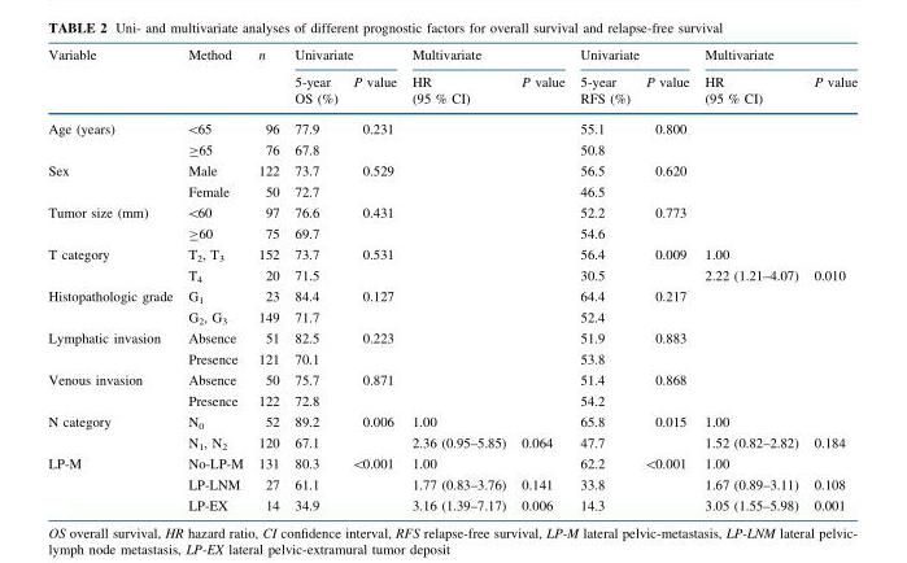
<table><thead><tr><td rowspan="2">Variable</td><td rowspan="2">Method</td><td rowspan="2">n</td><td colspan="2">Univariate</td><td colspan="2">Multivariate</td><td colspan="2">Univariate</td><td colspan="2">Multivariate</td></tr><tr><td>5-year OS (%)</td><td>P value</td><td>HR (95 % CI)</td><td>P value</td><td>5-year RFS (%)</td><td>P value</td><td>HR (95 % CI)</td><td>P value</td></tr></thead><tbody><tr><td rowspan="2">Age (years)</td><td>&lt;65</td><td>96</td><td>77.9</td><td>0.231</td><td></td><td></td><td>55.1</td><td>0.800</td><td></td><td></td></tr><tr><td>≥65</td><td>76</td><td>67.8</td><td></td><td></td><td></td><td>50.8</td><td></td><td></td><td></td></tr><tr><td rowspan="2">Sex</td><td>Male</td><td>122</td><td>73.7</td><td>0.529</td><td></td><td></td><td>56.5</td><td>0.620</td><td></td><td></td></tr><tr><td>Female</td><td>50</td><td>72.7</td><td></td><td></td><td></td><td>46.5</td><td></td><td></td><td></td></tr><tr><td rowspan="2">Tumor size (mm)</td><td>&lt;60</td><td>97</td><td>76.6</td><td>0.431</td><td></td><td></td><td>52.2</td><td>0.773</td><td></td><td></td></tr><tr><td>≥60</td><td>75</td><td>69.7</td><td></td><td></td><td></td><td>54.6</td><td></td><td></td><td></td></tr><tr><td rowspan="2">T category</td><td>T<sub>2</sub>, T<sub>3</sub></td><td>152</td><td>73.7</td><td>0.531</td><td></td><td></td><td>56.4</td><td>0.009</td><td>1.00</td><td></td></tr><tr><td>T<sub>4</sub></td><td>20</td><td>71.5</td><td></td><td></td><td></td><td>30.5</td><td></td><td>2.22 (1.21–4.07)</td><td>0.010</td></tr><tr><td rowspan="2">Histopathologic grade</td><td>G<sub>1</sub></td><td>23</td><td>84.4</td><td>0.127</td><td></td><td></td><td>64.4</td><td>0.217</td><td></td><td></td></tr><tr><td>G<sub>2</sub>, G<sub>3</sub></td><td>149</td><td>71.7</td><td></td><td></td><td></td><td>52.4</td><td></td><td></td><td></td></tr><tr><td rowspan="2">Lymphatic invasion</td><td>Absence</td><td>51</td><td>82.5</td><td>0.223</td><td></td><td></td><td>51.9</td><td>0.883</td><td></td><td></td></tr><tr><td>Presence</td><td>121</td><td>70.1</td><td></td><td></td><td></td><td>53.8</td><td></td><td></td><td></td></tr><tr><td rowspan="2">Venous invasion</td><td>Absence</td><td>50</td><td>75.7</td><td>0.871</td><td></td><td></td><td>51.4</td><td>0.868</td><td></td><td></td></tr><tr><td>Presence</td><td>122</td><td>72.8</td><td></td><td></td><td></td><td>54.2</td><td></td><td></td><td></td></tr><tr><td rowspan="2">N category</td><td>N<sub>0</sub></td><td>52</td><td>89.2</td><td>0.006</td><td>1.00</td><td></td><td>65.8</td><td>0.015</td><td>1.00</td><td></td></tr><tr><td>N<sub>1</sub>, N<sub>2</sub></td><td>120</td><td>67.1</td><td></td><td>2.36 (0.95–5.85)</td><td>0.064</td><td>47.7</td><td></td><td>1.52 (0.82–2.82)</td><td>0.184</td></tr><tr><td rowspan="3">LP-M</td><td>No-LP-M</td><td>131</td><td>80.3</td><td>&lt;0.001</td><td>1.00</td><td></td><td>62.2</td><td>&lt;0.001</td><td>1.00</td><td></td></tr><tr><td>LP-LNM</td><td>27</td><td>61.1</td><td></td><td>1.77 (0.83–3.76)</td><td>0.141</td><td>33.8</td><td></td><td>1.67 (0.89–3.11)</td><td>0.108</td></tr><tr><td>LP-EX</td><td>14</td><td>34.9</td><td></td><td>3.16 (1.39–7.17)</td><td>0.006</td><td>14.3</td><td></td><td>3.05 (1.55–5.98)</td><td>0.001</td></tr></tbody></table>